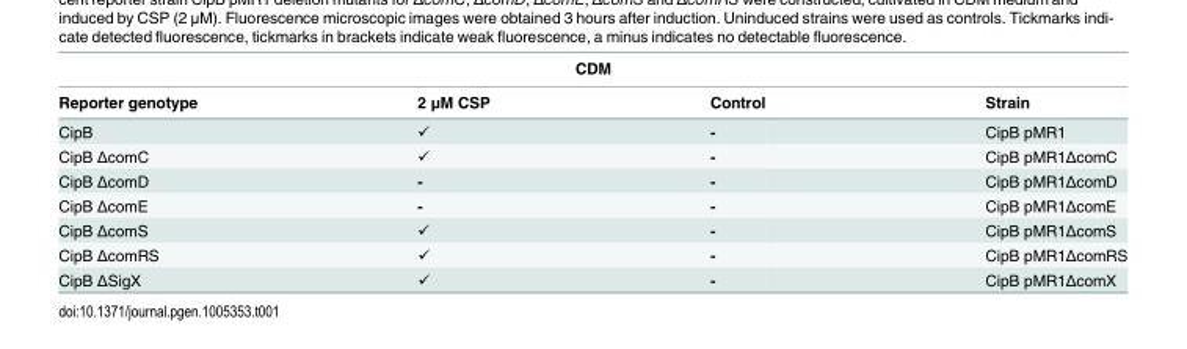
<table><thead><tr><td colspan="4">CDM</td></tr><tr><td>Reporter genotype</td><td>2 μM CSP</td><td>Control</td><td>Strain</td></tr></thead><tbody><tr><td>CipB</td><td>✓</td><td>-</td><td>CipB pMR1</td></tr><tr><td>CipB ΔcomC</td><td>✓</td><td>-</td><td>CipB pMR1ΔcomC</td></tr><tr><td>CipB ΔcomD</td><td>-</td><td>-</td><td>CipB pMR1ΔcomD</td></tr><tr><td>CipB ΔcomE</td><td>-</td><td>-</td><td>CipB pMR1ΔcomE</td></tr><tr><td>CipB ΔcomS</td><td>✓</td><td>-</td><td>CipB pMR1ΔcomS</td></tr><tr><td>CipB ΔcomRS</td><td>✓</td><td>-</td><td>CipB pMR1ΔcomRS</td></tr><tr><td>CipB ΔSigX</td><td>✓</td><td>-</td><td>CipB pMR1ΔcomX</td></tr></tbody></table>